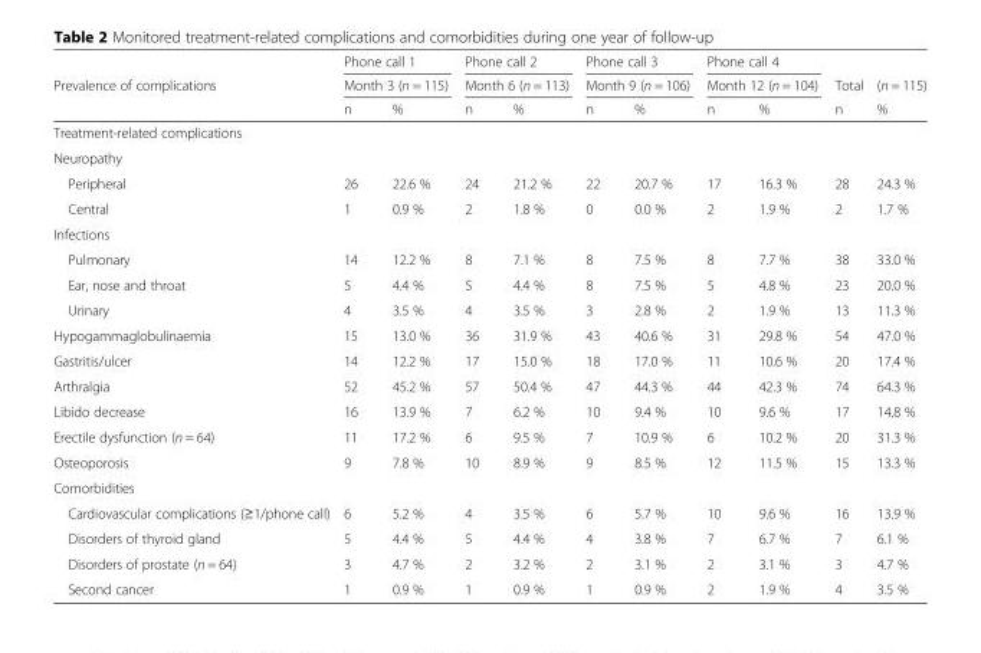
<table><thead><tr><td rowspan="3">Prevalence of complications</td><td rowspan="2" colspan="2">Phone call 1 Month 3 (n = 115)</td><td rowspan="2" colspan="2">Phone call 2 Month 6 (n = 113)</td><td rowspan="2" colspan="2">Phone call 3 Month 9 (n = 106)</td><td rowspan="2" colspan="2">Phone call 4 Month 12 (n = 104)</td><td rowspan="3">Total n</td><td rowspan="3">(n = 115) %</td></tr><tr></tr><tr><td>n</td><td>%</td><td>n</td><td>%</td><td>n</td><td>%</td><td>n</td><td>%</td></tr></thead><tbody><tr><td colspan="11">Treatment-related complications</td></tr><tr><td colspan="11">Neuropathy</td></tr><tr><td>Peripheral</td><td>26</td><td>22.6 %</td><td>24</td><td>21.2 %</td><td>22</td><td>20.7 %</td><td>17</td><td>16.3 %</td><td>28</td><td>24.3 %</td></tr><tr><td>Central</td><td>1</td><td>0.9 %</td><td>2</td><td>1.8 %</td><td>0</td><td>0.0 %</td><td>2</td><td>1.9 %</td><td>2</td><td>1.7 %</td></tr><tr><td colspan="11">Infections</td></tr><tr><td>Pulmonary</td><td>14</td><td>12.2 %</td><td>8</td><td>7.1 %</td><td>8</td><td>7.5 %</td><td>8</td><td>7.7 %</td><td>38</td><td>33.0 %</td></tr><tr><td>Ear, nose and throat</td><td>5</td><td>4.4 %</td><td>5</td><td>4.4 %</td><td>8</td><td>7.5 %</td><td>5</td><td>4.8 %</td><td>23</td><td>20.0 %</td></tr><tr><td>Urinary</td><td>4</td><td>3.5 %</td><td>4</td><td>3.5 %</td><td>3</td><td>2.8 %</td><td>2</td><td>1.9 %</td><td>13</td><td>11.3 %</td></tr><tr><td>Hypogammaglobulinaemia</td><td>15</td><td>13.0 %</td><td>36</td><td>31.9 %</td><td>43</td><td>40.6 %</td><td>31</td><td>29.8 %</td><td>54</td><td>47.0 %</td></tr><tr><td>Gastritis/ulcer</td><td>14</td><td>12.2 %</td><td>17</td><td>15.0 %</td><td>18</td><td>17.0 %</td><td>11</td><td>10.6 %</td><td>20</td><td>17.4 %</td></tr><tr><td>Arthralgia</td><td>52</td><td>45.2 %</td><td>57</td><td>50.4 %</td><td>47</td><td>44.3 %</td><td>44</td><td>42.3 %</td><td>74</td><td>64.3 %</td></tr><tr><td>Libido decrease</td><td>16</td><td>13.9 %</td><td>7</td><td>6.2 %</td><td>10</td><td>9.4 %</td><td>10</td><td>9.6 %</td><td>17</td><td>14.8 %</td></tr><tr><td>Erectile dysfunction (n = 64)</td><td>11</td><td>17.2 %</td><td>6</td><td>9.5 %</td><td>7</td><td>10.9 %</td><td>6</td><td>10.2 %</td><td>20</td><td>31.3 %</td></tr><tr><td>Osteoporosis</td><td>9</td><td>7.8 %</td><td>10</td><td>8.9 %</td><td>9</td><td>8.5 %</td><td>12</td><td>11.5 %</td><td>15</td><td>13.3 %</td></tr><tr><td colspan="11">Comorbidities</td></tr><tr><td>Cardiovascular complications (≥1/phone call)</td><td>6</td><td>5.2 %</td><td>4</td><td>3.5 %</td><td>6</td><td>5.7 %</td><td>10</td><td>9.6 %</td><td>16</td><td>13.9 %</td></tr><tr><td>Disorders of thyroid gland</td><td>5</td><td>4.4 %</td><td>5</td><td>4.4 %</td><td>4</td><td>3.8 %</td><td>7</td><td>6.7 %</td><td>7</td><td>6.1 %</td></tr><tr><td>Disorders of prostate (n = 64)</td><td>3</td><td>4.7 %</td><td>2</td><td>3.2 %</td><td>2</td><td>3.1 %</td><td>2</td><td>3.1 %</td><td>3</td><td>4.7 %</td></tr><tr><td>Second cancer</td><td>1</td><td>0.9 %</td><td>1</td><td>0.9 %</td><td>1</td><td>0.9 %</td><td>2</td><td>1.9 %</td><td>4</td><td>3.5 %</td></tr></tbody></table>